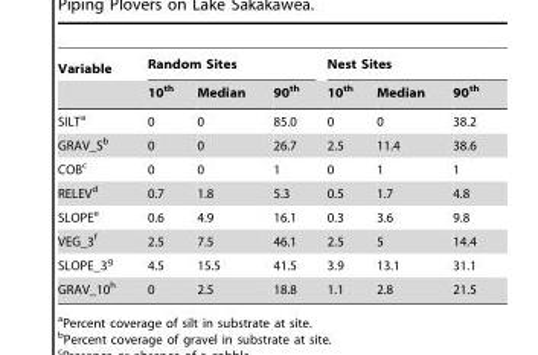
<table><thead><tr><td rowspan="2">Variable</td><td colspan="3">Random Sites</td><td colspan="3">Nest Sites</td></tr><tr><td>10<sup>th</sup></td><td>Median</td><td>90<sup>th</sup></td><td>10<sup>th</sup></td><td>Median</td><td>90<sup>th</sup></td></tr></thead><tbody><tr><td>SILT<sup>a</sup></td><td>0</td><td>0</td><td>85.0</td><td>0</td><td>0</td><td>38.2</td></tr><tr><td>GRAV_S<sup>b</sup></td><td>0</td><td>0</td><td>26.7</td><td>2.5</td><td>11.4</td><td>38.6</td></tr><tr><td>COB<sup>c</sup></td><td>0</td><td>0</td><td>1</td><td>0</td><td>1</td><td>1</td></tr><tr><td>RELEV<sup>d</sup></td><td>0.7</td><td>1.8</td><td>5.3</td><td>0.5</td><td>1.7</td><td>4.8</td></tr><tr><td>SLOPE<sup>e</sup></td><td>0.6</td><td>4.9</td><td>16.1</td><td>0.3</td><td>3.6</td><td>9.8</td></tr><tr><td>VEG_3<sup>f</sup></td><td>2.5</td><td>7.5</td><td>46.1</td><td>2.5</td><td>5</td><td>14.4</td></tr><tr><td>SLOPE_3<sup>g</sup></td><td>4.5</td><td>15.5</td><td>41.5</td><td>3.9</td><td>13.1</td><td>31.1</td></tr><tr><td>GRAV_10<sup>h</sup></td><td>0</td><td>2.5</td><td>18.8</td><td>1.1</td><td>2.8</td><td>21.5</td></tr></tbody></table>